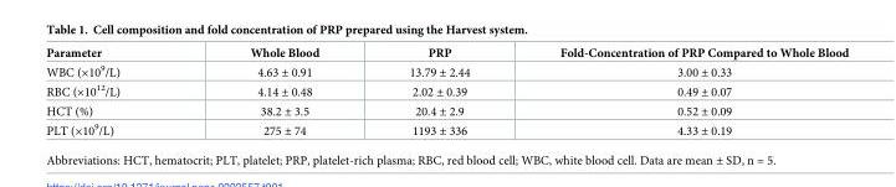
<table><thead><tr><td>Parameter</td><td>Whole Blood</td><td>PRP</td><td>Fold-Concentration of PRP Compared to Whole Blood</td></tr></thead><tbody><tr><td>WBC (×10<sup>9</sup>/L)</td><td>4.63 ± 0.91</td><td>13.79 ± 2.44</td><td>3.00 ± 0.33</td></tr><tr><td>RBC (×10<sup>12</sup>/L)</td><td>4.14 ± 0.48</td><td>2.02 ± 0.39</td><td>0.49 ± 0.07</td></tr><tr><td>HCT (%)</td><td>38.2 ± 3.5</td><td>20.4 ± 2.9</td><td>0.52 ± 0.09</td></tr><tr><td>PLT (×10<sup>9</sup>/L)</td><td>275 ± 74</td><td>1193 ± 336</td><td>4.33 ± 0.19</td></tr></tbody></table>